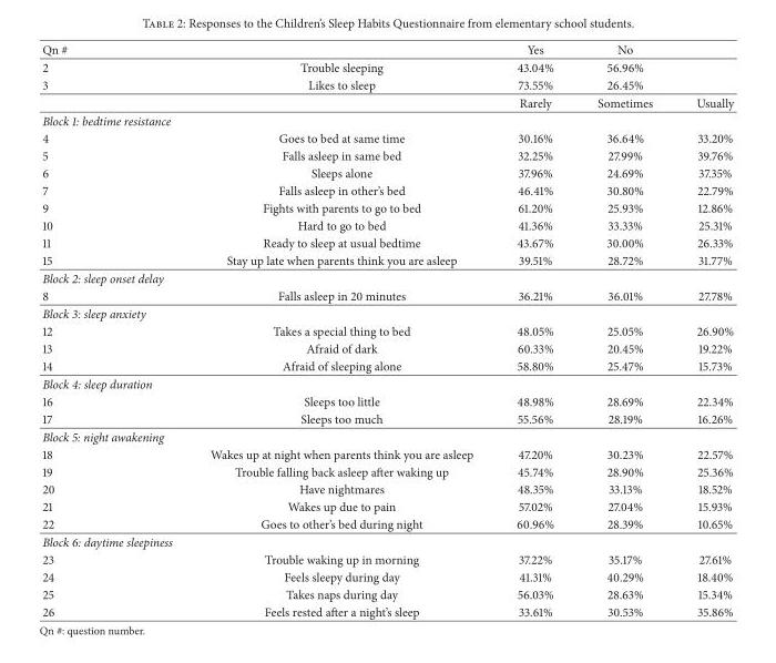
<table><thead><tr><td>Qn #</td><td></td><td>Yes</td><td>No</td><td></td></tr></thead><tbody><tr><td>2</td><td>Trouble sleeping</td><td>43.04%</td><td>56.96%</td><td></td></tr><tr><td rowspan="2">3</td><td>Likes to sleep</td><td>73.55%</td><td>26.45%</td><td></td></tr><tr><td></td><td>Rarely</td><td>Sometimes</td><td>Usually</td></tr><tr><td colspan="5">Block 1: bedtime resistance</td></tr><tr><td>4</td><td>Goes to bed at same time</td><td>30.16%</td><td>36.64%</td><td>33.20%</td></tr><tr><td>5</td><td>Falls asleep in same bed</td><td>32.25%</td><td>27.99%</td><td>39.76%</td></tr><tr><td>6</td><td>Sleeps alone</td><td>37.96%</td><td>24.69%</td><td>37.35%</td></tr><tr><td>7</td><td>Falls asleep in other’s bed</td><td>46.41%</td><td>30.80%</td><td>22.79%</td></tr><tr><td>9</td><td>Fights with parents to go to bed</td><td>61.20%</td><td>25.93%</td><td>12.86%</td></tr><tr><td>10</td><td>Hard to go to bed</td><td>41.36%</td><td>33.33%</td><td>25.31%</td></tr><tr><td>11</td><td>Ready to sleep at usual bedtime</td><td>43.67%</td><td>30.00%</td><td>26.33%</td></tr><tr><td>15</td><td>Stay up late when parents think you are asleep</td><td>39.51%</td><td>28.72%</td><td>31.77%</td></tr><tr><td colspan="5">Block 2: sleep onset delay</td></tr><tr><td>8</td><td>Falls asleep in 20 minutes</td><td>36.21%</td><td>36.01%</td><td>27.78%</td></tr><tr><td colspan="5">Block 3: sleep anxiety</td></tr><tr><td>12</td><td>Takes a special thing to bed</td><td>48.05%</td><td>25.05%</td><td>26.90%</td></tr><tr><td>13</td><td>Afraid of dark</td><td>60.33%</td><td>20.45%</td><td>19.22%</td></tr><tr><td>14</td><td>Afraid of sleeping alone</td><td>58.80%</td><td>25.47%</td><td>15.73%</td></tr><tr><td colspan="5">Block 4: sleep duration</td></tr><tr><td>16</td><td>Sleeps too little</td><td>48.98%</td><td>28.69%</td><td>22.34%</td></tr><tr><td>17</td><td>Sleeps too much</td><td>55.56%</td><td>28.19%</td><td>16.26%</td></tr><tr><td colspan="5">Block 5: night awakening</td></tr><tr><td>18</td><td>Wakes up at night when parents think you are asleep</td><td>47.20%</td><td>30.23%</td><td>22.57%</td></tr><tr><td>19</td><td>Trouble falling back asleep after waking up</td><td>45.74%</td><td>28.90%</td><td>25.36%</td></tr><tr><td>20</td><td>Have nightmares</td><td>48.35%</td><td>33.13%</td><td>18.52%</td></tr><tr><td>21</td><td>Wakes up due to pain</td><td>57.02%</td><td>27.04%</td><td>15.93%</td></tr><tr><td>22</td><td>Goes to other’s bed during night</td><td>60.96%</td><td>28.39%</td><td>10.65%</td></tr><tr><td colspan="5">Block 6: daytime sleepiness</td></tr><tr><td>23</td><td>Trouble waking up in morning</td><td>37.22%</td><td>35.17%</td><td>27.61%</td></tr><tr><td>24</td><td>Feels sleepy during day</td><td>41.31%</td><td>40.29%</td><td>18.40%</td></tr><tr><td>25</td><td>Takes naps during day</td><td>56.03%</td><td>28.63%</td><td>15.34%</td></tr><tr><td>26</td><td>Feels rested after a night’s sleep</td><td>33.61%</td><td>30.53%</td><td>35.86%</td></tr></tbody></table>